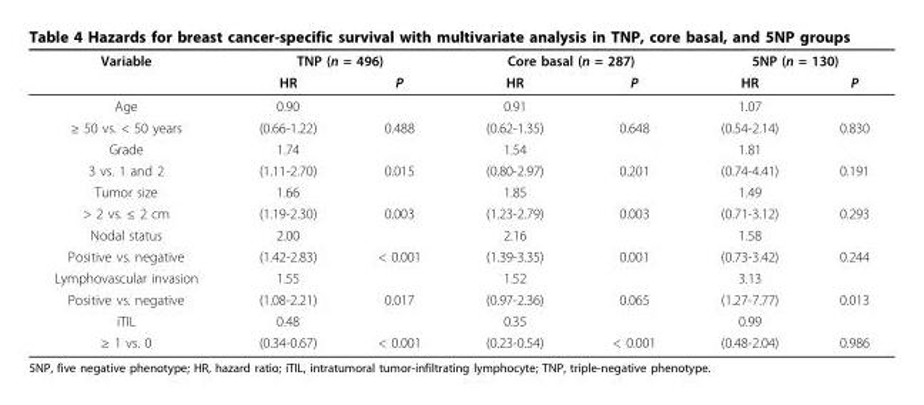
<table><thead><tr><td rowspan="2">Variable</td><td colspan="2">TNP (n = 496)</td><td colspan="2">Core basal (n = 287)</td><td colspan="2">5NP (n = 130)</td></tr><tr><td>HR</td><td>P</td><td>HR</td><td>P</td><td>HR</td><td>P</td></tr></thead><tbody><tr><td>Age</td><td>0.90</td><td></td><td>0.91</td><td></td><td>1.07</td><td></td></tr><tr><td>≥ 50 vs. &lt; 50 years</td><td>(0.66-1.22)</td><td>0.488</td><td>(0.62-1.35)</td><td>0.648</td><td>(0.54-2.14)</td><td>0.830</td></tr><tr><td>Grade</td><td>1.74</td><td></td><td>1.54</td><td></td><td>1.81</td><td></td></tr><tr><td>3 vs. 1 and 2</td><td>(1.11-2.70)</td><td>0.015</td><td>(0.80-2.97)</td><td>0.201</td><td>(0.74-4.41)</td><td>0.191</td></tr><tr><td>Tumor size</td><td>1.66</td><td></td><td>1.85</td><td></td><td>1.49</td><td></td></tr><tr><td>&gt; 2 vs. ≤ 2 cm</td><td>(1.19-2.30)</td><td>0.003</td><td>(1.23-2.79)</td><td>0.003</td><td>(0.71-3.12)</td><td>0.293</td></tr><tr><td>Nodal status</td><td>2.00</td><td></td><td>2.16</td><td></td><td>1.58</td><td></td></tr><tr><td>Positive vs. negative</td><td>(1.42-2.83)</td><td>&lt; 0.001</td><td>(1.39-3.35)</td><td>0.001</td><td>(0.73-3.42)</td><td>0.244</td></tr><tr><td>Lymphovascular invasion</td><td>1.55</td><td></td><td>1.52</td><td></td><td>3.13</td><td></td></tr><tr><td>Positive vs. negative</td><td>(1.08-2.21)</td><td>0.017</td><td>(0.97-2.36)</td><td>0.065</td><td>(1.27-7.77)</td><td>0.013</td></tr><tr><td>iTIL</td><td>0.48</td><td></td><td>0.35</td><td></td><td>0.99</td><td></td></tr><tr><td>≥ 1 vs. 0</td><td>(0.34-0.67)</td><td>&lt; 0.001</td><td>(0.23-0.54)</td><td>&lt; 0.001</td><td>(0.48-2.04)</td><td>0.986</td></tr></tbody></table>